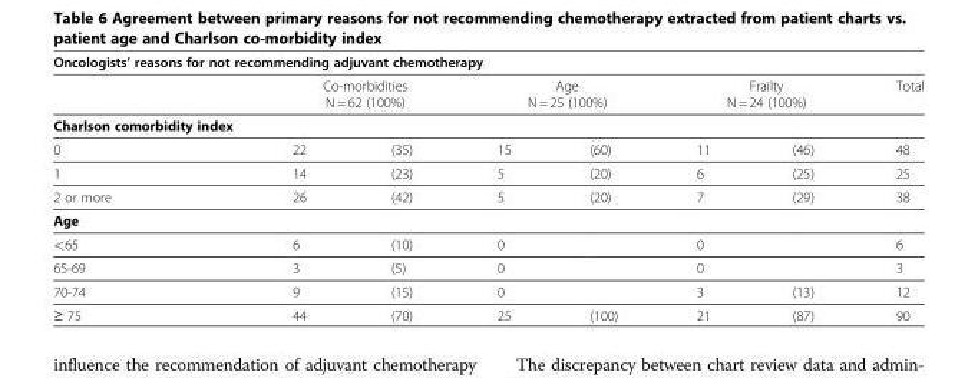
<table><thead><tr><td colspan="8">Oncologists’ reasons for not recommending adjuvant chemotherapy</td></tr><tr><td rowspan="2">Charlson comorbidity index</td><td colspan="2">Co-morbidities N = 62 (100%)</td><td colspan="2">Age N = 25 (100%)</td><td colspan="2">Frailty N = 24 (100%)</td><td rowspan="2">Total</td></tr><tr><td></td><td></td><td></td><td></td><td></td><td></td></tr></thead><tbody><tr><td>0</td><td>22</td><td>(35)</td><td>15</td><td>(60)</td><td>11</td><td>(46)</td><td>48</td></tr><tr><td>1</td><td>14</td><td>(23)</td><td>5</td><td>(20)</td><td>6</td><td>(25)</td><td>25</td></tr><tr><td>2 or more</td><td>26</td><td>(42)</td><td>5</td><td>(20)</td><td>7</td><td>(29)</td><td>38</td></tr><tr><td colspan="8">Age</td></tr><tr><td>&lt;65</td><td>6</td><td>(10)</td><td>0</td><td></td><td>0</td><td></td><td>6</td></tr><tr><td>65-69</td><td>3</td><td>(5)</td><td>0</td><td></td><td>0</td><td></td><td>3</td></tr><tr><td>70-74</td><td>9</td><td>(15)</td><td>0</td><td></td><td>3</td><td>(13)</td><td>12</td></tr><tr><td>≥ 75</td><td>44</td><td>(70)</td><td>25</td><td>(100)</td><td>21</td><td>(87)</td><td>90</td></tr></tbody></table>